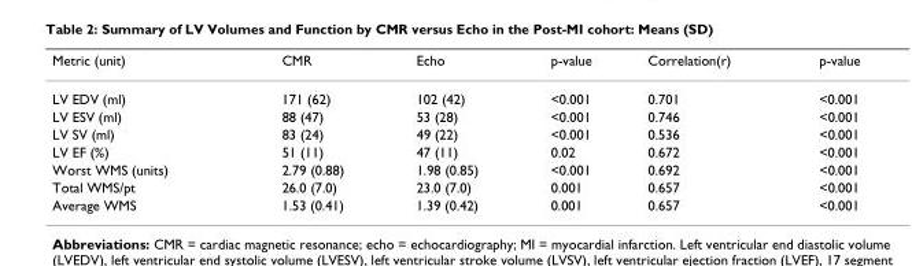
<table><thead><tr><td>Metric (unit)</td><td>CMR</td><td>Echo</td><td>p-value</td><td>Correlation(r)</td><td>p-value</td></tr></thead><tbody><tr><td>LV EDV (ml)</td><td>171 (62)</td><td>102 (42)</td><td>&lt;0.001</td><td>0.701</td><td>&lt;0.001</td></tr><tr><td>LV ESV (ml)</td><td>88 (47)</td><td>53 (28)</td><td>&lt;0.001</td><td>0.746</td><td>&lt;0.001</td></tr><tr><td>LV SV (ml)</td><td>83 (24)</td><td>49 (22)</td><td>&lt;0.001</td><td>0.536</td><td>&lt;0.001</td></tr><tr><td>LV EF (%)</td><td>51 (11)</td><td>47 (11)</td><td>0.02</td><td>0.672</td><td>&lt;0.001</td></tr><tr><td>Worst WMS (units)</td><td>2.79 (0.88)</td><td>1.98 (0.85)</td><td>&lt;0.001</td><td>0.692</td><td>&lt;0.001</td></tr><tr><td>Total WMS/pt</td><td>26.0 (7.0)</td><td>23.0 (7.0)</td><td>0.001</td><td>0.657</td><td>&lt;0.001</td></tr><tr><td>Average WMS</td><td>1.53 (0.41)</td><td>1.39 (0.42)</td><td>0.001</td><td>0.657</td><td>&lt;0.001</td></tr></tbody></table>